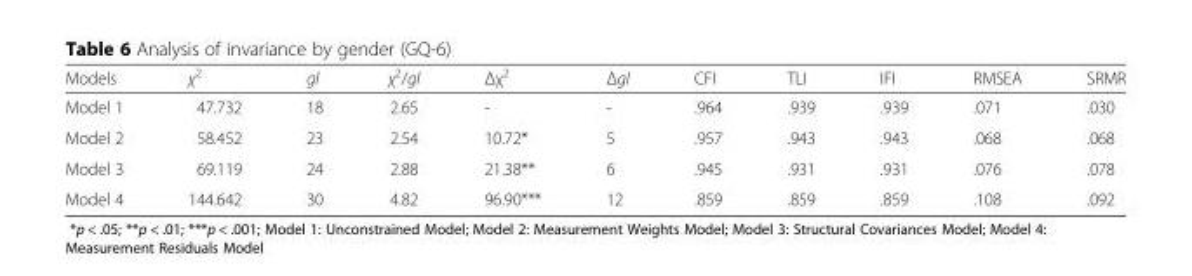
<table><thead><tr><td>Models</td><td>χ<sup>2</sup></td><td>gl</td><td>χ<sup>2</sup>/gl</td><td>Δχ<sup>2</sup></td><td>Δgl</td><td>CFI</td><td>TLI</td><td>IFI</td><td>RMSEA</td><td>SRMR</td></tr></thead><tbody><tr><td>Model 1</td><td>47.732</td><td>18</td><td>2.65</td><td>-</td><td>-</td><td>.964</td><td>.939</td><td>.939</td><td>.071</td><td>.030</td></tr><tr><td>Model 2</td><td>58.452</td><td>23</td><td>2.54</td><td>10.72*</td><td>5</td><td>.957</td><td>.943</td><td>.943</td><td>.068</td><td>.068</td></tr><tr><td>Model 3</td><td>69.119</td><td>24</td><td>2.88</td><td>21.38**</td><td>6</td><td>.945</td><td>.931</td><td>.931</td><td>.076</td><td>.078</td></tr><tr><td>Model 4</td><td>144.642</td><td>30</td><td>4.82</td><td>96.90***</td><td>12</td><td>.859</td><td>.859</td><td>.859</td><td>.108</td><td>.092</td></tr></tbody></table>